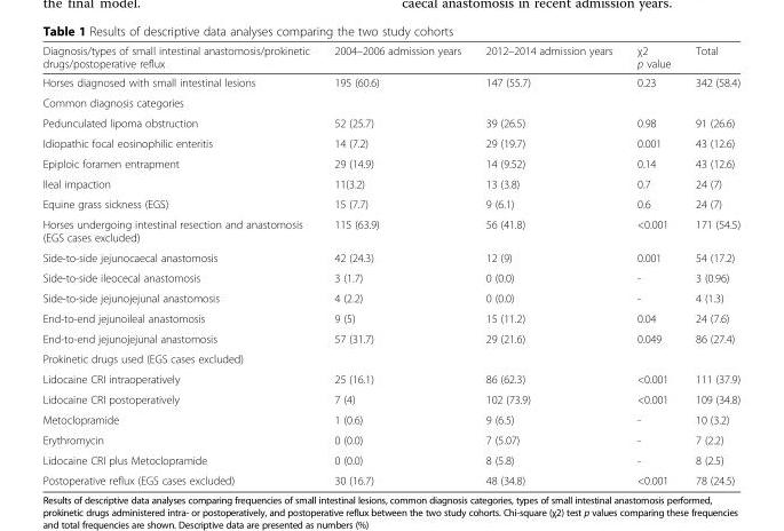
<table><thead><tr><td>Diagnosis/types of small intestinal anastomosis/prokinetic drugs/postoperative reflux</td><td>2004–2006 admission years</td><td>2012–2014 admission years</td><td>χ2 p value</td><td>Total</td></tr></thead><tbody><tr><td>Horses diagnosed with small intestinal lesions</td><td>195 (60.6)</td><td>147 (55.7)</td><td>0.23</td><td>342 (58.4)</td></tr><tr><td colspan="5">Common diagnosis categories</td></tr><tr><td>Pedunculated lipoma obstruction</td><td>52 (25.7)</td><td>39 (26.5)</td><td>0.98</td><td>91 (26.6)</td></tr><tr><td>Idiopathic focal eosinophilic enteritis</td><td>14 (7.2)</td><td>29 (19.7)</td><td>0.001</td><td>43 (12.6)</td></tr><tr><td>Epiploic foramen entrapment</td><td>29 (14.9)</td><td>14 (9.52)</td><td>0.14</td><td>43 (12.6)</td></tr><tr><td>Ileal impaction</td><td>11(3.2)</td><td>13 (3.8)</td><td>0.7</td><td>24 (7)</td></tr><tr><td>Equine grass sickness (EGS)</td><td>15 (7.7)</td><td>9 (6.1)</td><td>0.6</td><td>24 (7)</td></tr><tr><td>Horses undergoing intestinal resection and anastomosis (EGS cases excluded)</td><td>115 (63.9)</td><td>56 (41.8)</td><td>&lt;0.001</td><td>171 (54.5)</td></tr><tr><td>Side-to-side jejunocaecal anastomosis</td><td>42 (24.3)</td><td>12 (9)</td><td>0.001</td><td>54 (17.2)</td></tr><tr><td>Side-to-side ileocecal anastomosis</td><td>3 (1.7)</td><td>0 (0.0)</td><td>-</td><td>3 (0.96)</td></tr><tr><td>Side-to-side jejunojejunal anastomosis</td><td>4 (2.2)</td><td>0 (0.0)</td><td>-</td><td>4 (1.3)</td></tr><tr><td>End-to-end jejunoileal anastomosis</td><td>9 (5)</td><td>15 (11.2)</td><td>0.04</td><td>24 (7.6)</td></tr><tr><td>End-to-end jejunojejunal anastomosis</td><td>57 (31.7)</td><td>29 (21.6)</td><td>0.049</td><td>86 (27.4)</td></tr><tr><td colspan="5">Prokinetic drugs used (EGS cases excluded)</td></tr><tr><td>Lidocaine CRI intraoperatively</td><td>25 (16.1)</td><td>86 (62.3)</td><td>&lt;0.001</td><td>111 (37.9)</td></tr><tr><td>Lidocaine CRI postoperatively</td><td>7 (4)</td><td>102 (73.9)</td><td>&lt;0.001</td><td>109 (34.8)</td></tr><tr><td>Metoclopramide</td><td>1 (0.6)</td><td>9 (6.5)</td><td>-</td><td>10 (3.2)</td></tr><tr><td>Erythromycin</td><td>0 (0.0)</td><td>7 (5.07)</td><td>-</td><td>7 (2.2)</td></tr><tr><td>Lidocaine CRI plus Metoclopramide</td><td>0 (0.0)</td><td>8 (5.8)</td><td>-</td><td>8 (2.5)</td></tr><tr><td>Postoperative reflux (EGS cases excluded)</td><td>30 (16.7)</td><td>48 (34.8)</td><td>&lt;0.001</td><td>78 (24.5)</td></tr></tbody></table>